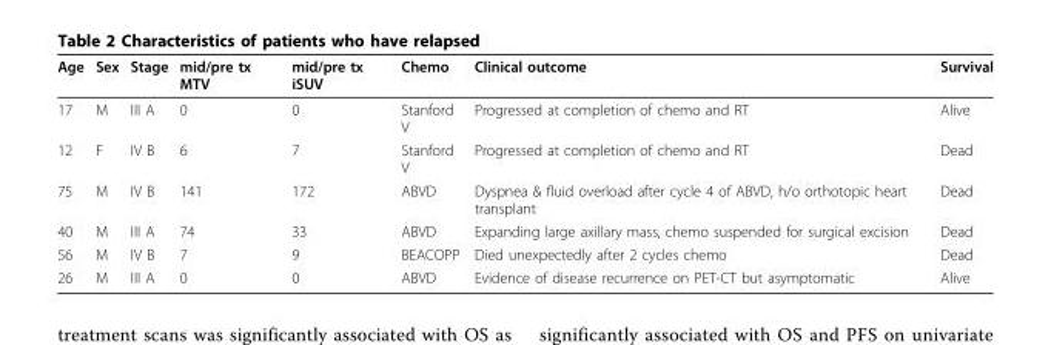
<table><thead><tr><td>Age</td><td>Sex</td><td>Stage</td><td>mid/pre tx MTV</td><td>mid/pre tx iSUV</td><td>Chemo</td><td>Clinical outcome</td><td>Survival</td></tr></thead><tbody><tr><td>17</td><td>M</td><td>III A</td><td>0</td><td>0</td><td>Stanford V</td><td>Progressed at completion of chemo and RT</td><td>Alive</td></tr><tr><td>12</td><td>F</td><td>IV B</td><td>6</td><td>7</td><td>Stanford V</td><td>Progressed at completion of chemo and RT</td><td>Dead</td></tr><tr><td>75</td><td>M</td><td>IV B</td><td>141</td><td>172</td><td>ABVD</td><td>Dyspnea &amp; fluid overload after cycle 4 of ABVD, h/o orthotopic heart transplant</td><td>Dead</td></tr><tr><td>40</td><td>M</td><td>III A</td><td>74</td><td>33</td><td>ABVD</td><td>Expanding large axillary mass, chemo suspended for surgical excision</td><td>Dead</td></tr><tr><td>56</td><td>M</td><td>IV B</td><td>7</td><td>9</td><td>BEACOPP</td><td>Died unexpectedly after 2 cycles chemo</td><td>Dead</td></tr><tr><td>26</td><td>M</td><td>III A</td><td>0</td><td>0</td><td>ABVD</td><td>Evidence of disease recurrence on PET-CT but asymptomatic</td><td>Alive</td></tr></tbody></table>